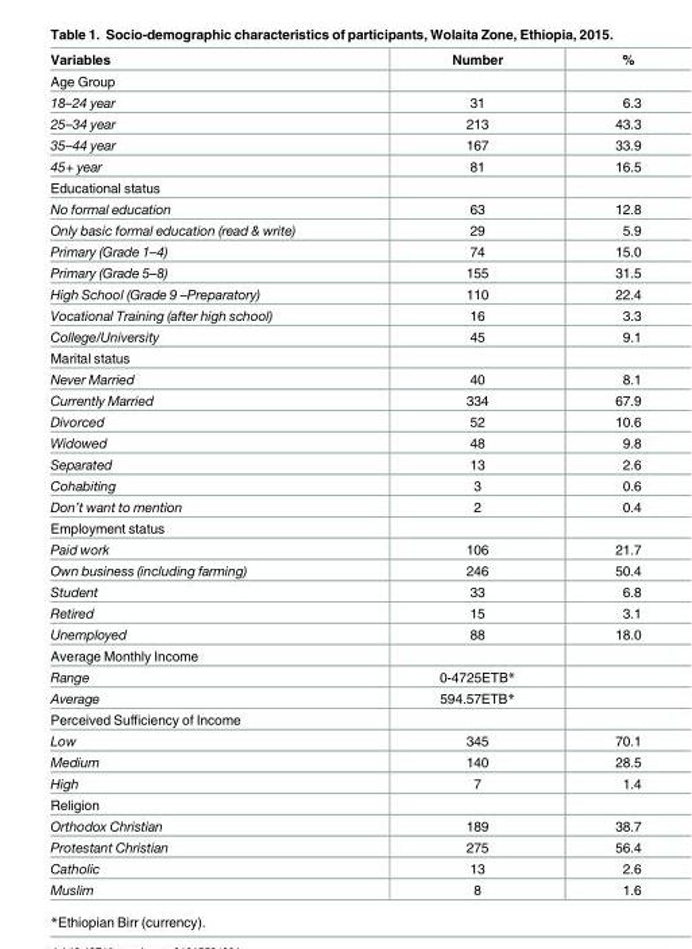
<table><thead><tr><td>Variables</td><td>Number</td><td>%</td></tr></thead><tbody><tr><td colspan="3">Age Group</td></tr><tr><td>18–24 year</td><td>31</td><td>6.3</td></tr><tr><td>25–34 year</td><td>213</td><td>43.3</td></tr><tr><td>35–44 year</td><td>167</td><td>33.9</td></tr><tr><td>45+ year</td><td>81</td><td>16.5</td></tr><tr><td colspan="3">Educational status</td></tr><tr><td>No formal education</td><td>63</td><td>12.8</td></tr><tr><td>Only basic formal education (read &amp; write)</td><td>29</td><td>5.9</td></tr><tr><td>Primary (Grade 1–4)</td><td>74</td><td>15.0</td></tr><tr><td>Primary (Grade 5–8)</td><td>155</td><td>31.5</td></tr><tr><td>High School (Grade 9 –Preparatory)</td><td>110</td><td>22.4</td></tr><tr><td>Vocational Training (after high school)</td><td>16</td><td>3.3</td></tr><tr><td>College/University</td><td>45</td><td>9.1</td></tr><tr><td colspan="3">Marital status</td></tr><tr><td>Never Married</td><td>40</td><td>8.1</td></tr><tr><td>Currently Married</td><td>334</td><td>67.9</td></tr><tr><td>Divorced</td><td>52</td><td>10.6</td></tr><tr><td>Widowed</td><td>48</td><td>9.8</td></tr><tr><td>Separated</td><td>13</td><td>2.6</td></tr><tr><td>Cohabiting</td><td>3</td><td>0.6</td></tr><tr><td>Don’t want to mention</td><td>2</td><td>0.4</td></tr><tr><td colspan="3">Employment status</td></tr><tr><td>Paid work</td><td>106</td><td>21.7</td></tr><tr><td>Own business (including farming)</td><td>246</td><td>50.4</td></tr><tr><td>Student</td><td>33</td><td>6.8</td></tr><tr><td>Retired</td><td>15</td><td>3.1</td></tr><tr><td>Unemployed</td><td>88</td><td>18.0</td></tr><tr><td colspan="3">Average Monthly Income</td></tr><tr><td>Range</td><td>0-4725ETB*</td><td></td></tr><tr><td>Average</td><td>594.57ETB*</td><td></td></tr><tr><td colspan="3">Perceived Sufficiency of Income</td></tr><tr><td>Low</td><td>345</td><td>70.1</td></tr><tr><td>Medium</td><td>140</td><td>28.5</td></tr><tr><td>High</td><td>7</td><td>1.4</td></tr><tr><td colspan="3">Religion</td></tr><tr><td>Orthodox Christian</td><td>189</td><td>38.7</td></tr><tr><td>Protestant Christian</td><td>275</td><td>56.4</td></tr><tr><td>Catholic</td><td>13</td><td>2.6</td></tr><tr><td>Muslim</td><td>8</td><td>1.6</td></tr></tbody></table>